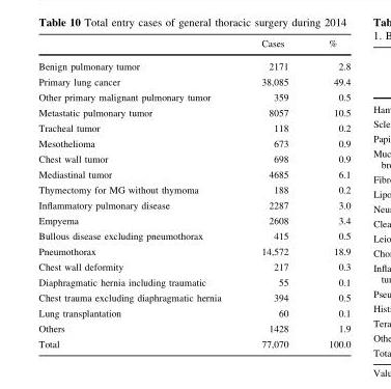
<table><thead><tr><td></td><td>Cases</td><td>%</td></tr></thead><tbody><tr><td>Benign pulmonary tumor</td><td>2171</td><td>2.8</td></tr><tr><td>Primary lung cancer</td><td>38,085</td><td>49.4</td></tr><tr><td>Other primary malignant pulmonary tumor</td><td>359</td><td>0.5</td></tr><tr><td>Metastatic pulmonary tumor</td><td>8057</td><td>10.5</td></tr><tr><td>Tracheal tumor</td><td>118</td><td>0.2</td></tr><tr><td>Mesothelioma</td><td>673</td><td>0.9</td></tr><tr><td>Chest wall tumor</td><td>698</td><td>0.9</td></tr><tr><td>Mediastinal tumor</td><td>4685</td><td>6.1</td></tr><tr><td>Thymectomy for MG without thymoma</td><td>188</td><td>0.2</td></tr><tr><td>Inflammatory pulmonary disease</td><td>2287</td><td>3.0</td></tr><tr><td>Empyema</td><td>2608</td><td>3.4</td></tr><tr><td>Bullous disease excluding pneumothorax</td><td>415</td><td>0.5</td></tr><tr><td>Pneumothorax</td><td>14,572</td><td>18.9</td></tr><tr><td>Chest wall deformity</td><td>217</td><td>0.3</td></tr><tr><td>Diaphragmatic hernia including traumatic</td><td>55</td><td>0.1</td></tr><tr><td>Chest trauma excluding diaphragmatic hernia</td><td>394</td><td>0.5</td></tr><tr><td>Lung transplantation</td><td>60</td><td>0.1</td></tr><tr><td>Others</td><td>1428</td><td>1.9</td></tr><tr><td>Total</td><td>77,070</td><td>100.0</td></tr></tbody></table>